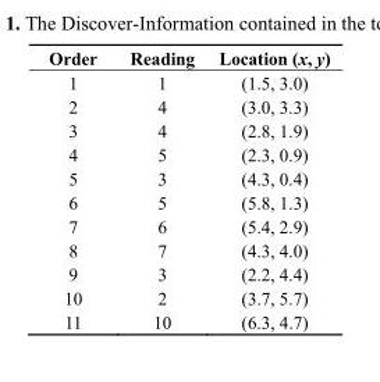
<table><thead><tr><td>Order</td><td>Reading</td><td>Location (x, y)</td></tr></thead><tbody><tr><td>1</td><td>1</td><td>(1.5, 3.0)</td></tr><tr><td>2</td><td>4</td><td>(3.0, 3.3)</td></tr><tr><td>3</td><td>4</td><td>(2.8, 1.9)</td></tr><tr><td>4</td><td>5</td><td>(2.3, 0.9)</td></tr><tr><td>5</td><td>3</td><td>(4.3, 0.4)</td></tr><tr><td>6</td><td>5</td><td>(5.8, 1.3)</td></tr><tr><td>7</td><td>6</td><td>(5.4, 2.9)</td></tr><tr><td>8</td><td>7</td><td>(4.3, 4.0)</td></tr><tr><td>9</td><td>3</td><td>(2.2, 4.4)</td></tr><tr><td>10</td><td>2</td><td>(3.7, 5.7)</td></tr><tr><td>11</td><td>10</td><td>(6.3, 4.7)</td></tr></tbody></table>